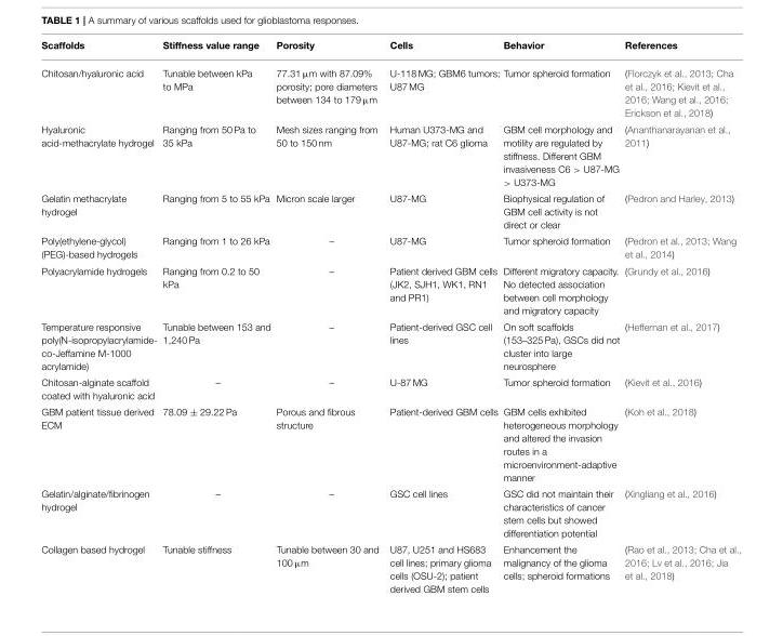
<table><thead><tr><td>Scaffolds</td><td>Stiffness value range</td><td>Porosity</td><td>Cells</td><td>Behavior</td><td>References</td></tr></thead><tbody><tr><td>Chitosan/hyaluronic acid</td><td>Tunable between kPa to MPa</td><td>77.31 µm with 87.09% porosity; pore diameters between 134 to 179 µm</td><td>U-118 MG; GBM6 tumors; U87 MG</td><td>Tumor spheroid formation</td><td>(Florczyk et al., 2013; Cha et al., 2016; Kievit et al., 2016; Wang et al., 2016; Erickson et al., 2018)</td></tr><tr><td>Hyaluronic acid-methacrylate hydrogel</td><td>Ranging from 50 Pa to 35 kPa</td><td>Mesh sizes ranging from 50 to 150 nm</td><td>Human U373-MG and U87-MG; rat C6 glioma</td><td>GBM cell morphology and motility are regulated by stiffness. Different GBM invasiveness C6 &gt; U87-MG &gt; U373-MG</td><td>(Ananthanarayanan et al., 2011)</td></tr><tr><td>Gelatin methacrylate hydrogel</td><td>Ranging from 5 to 55 kPa</td><td>Micron scale larger</td><td>U87-MG</td><td>Biophysical regulation of GBM cell activity is not direct or clear</td><td>(Pedron and Harley, 2013)</td></tr><tr><td>Poly(ethylene-glycol) (PEG)-based hydrogels</td><td>Ranging from 1 to 26 kPa</td><td>–</td><td>U87-MG</td><td>Tumor spheroid formation</td><td>(Pedron et al., 2013; Wang et al., 2014)</td></tr><tr><td>Polyacrylamide hydrogels</td><td>Ranging from 0.2 to 50 kPa</td><td>–</td><td>Patient derived GBM cells (JK2, SJH1, WK1, RN1 and PR1)</td><td>Different migratory capacity. No detected association between cell morphology and migratory capacity</td><td>(Grundy et al., 2016)</td></tr><tr><td>Temperature responsive poly(N-isopropylacrylamide- co-Jeffamine M-1000 acrylamide)</td><td>Tunable between 153 and 1,240 Pa</td><td>–</td><td>Patient-derived GSC cell lines</td><td>On soft scaffolds (153–325 Pa), GSCs did not cluster into large neurosphere</td><td>(Heffernan et al., 2017)</td></tr><tr><td>Chitosan-alginate scaffold coated with hyaluronic acid</td><td>–</td><td>–</td><td>U-87 MG</td><td>Tumor spheroid formation</td><td>(Kievit et al., 2016)</td></tr><tr><td>GBM patient tissue derived ECM</td><td>78.09 ± 29.22 Pa</td><td>Porous and fibrous structure</td><td>Patient-derived GBM cells</td><td>GBM cells exhibited heterogeneous morphology and altered the invasion routes in a microenvironment-adaptive manner</td><td>(Koh et al., 2018)</td></tr><tr><td>Gelatin/alginate/fibrinogen hydrogel</td><td>–</td><td>–</td><td>GSC cell lines</td><td>GSC did not maintain their characteristics of cancer stem cells but showed differentiation potential</td><td>(Xingliang et al., 2016)</td></tr><tr><td>Collagen based hydrogel</td><td>Tunable stiffness</td><td>Tunable between 30 and 100 µm</td><td>U87, U251 and HS683 cell lines; primary glioma cells (OSU-2); patient derived GBM stem cells</td><td>Enhancement the malignancy of the glioma cells; spheroid formations</td><td>(Rao et al., 2013; Cha et al., 2016; Lv et al., 2016; Jia et al., 2018)</td></tr></tbody></table>